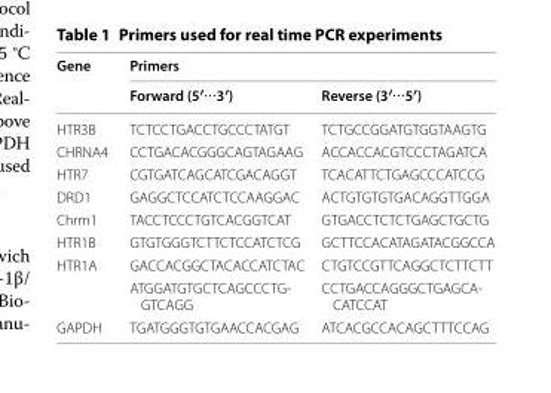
<table><thead><tr><td rowspan="2">Gene</td><td colspan="2">Primers</td></tr><tr><td>Forward (5′⋯3′)</td><td>Reverse (3′⋯5′)</td></tr></thead><tbody><tr><td>HTR3B</td><td>TCTCCTGACCTGCCCTATGT</td><td>TCTGCCGGATGTGGTAAGTG</td></tr><tr><td>CHRNA4</td><td>CCTGACACGGGCAGTAGAAG</td><td>ACCACCACGTCCCTAGATCA</td></tr><tr><td>HTR7</td><td>CGTGATCAGCATCGACAGGT</td><td>TCACATTCTGAGCCCATCCG</td></tr><tr><td>DRD1</td><td>GAGGCTCCATCTCCAAGGAC</td><td>ACTGTGTGTGACAGGTTGGA</td></tr><tr><td>Chrm1</td><td>TACCTCCCTGTCACGGTCAT</td><td>GTGACCTCTCTGAGCTGCTG</td></tr><tr><td>HTR1B</td><td>GTGTGGGTCTTCTCCATCTCG</td><td>GCTTCCACATAGATACGGCCA</td></tr><tr><td rowspan="2">HTR1A</td><td>GACCACGGCTACACCATCTAC</td><td>CTGTCCGTTCAGGCTCTTCTT</td></tr><tr><td>ATGGATGTGCTCAGCCCTG- GTCAGG</td><td>CCTGACCAGGGCTGAGCA- CATCCAT</td></tr><tr><td>GAPDH</td><td>TGATGGGTGTGAACCACGAG</td><td>ATCACGCCACAGCTTTCCAG</td></tr></tbody></table>